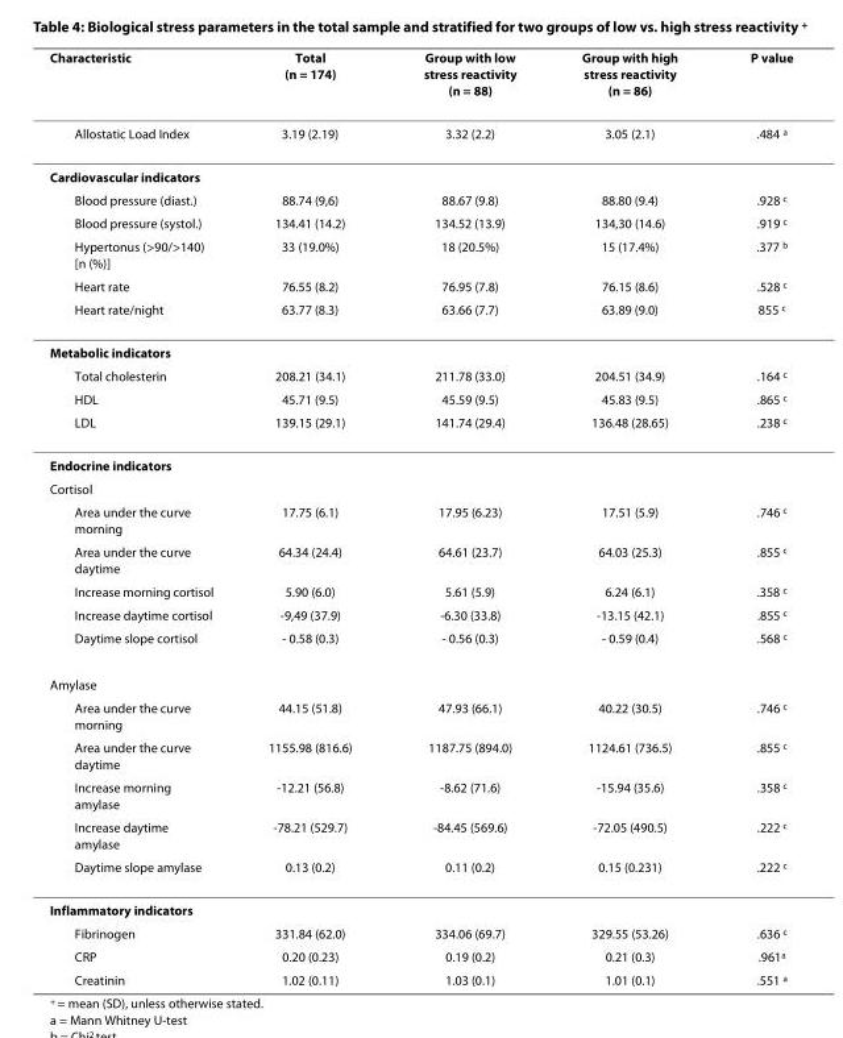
<table><thead><tr><td>Characteristic</td><td>Total (n = 174)</td><td>Group with low stress reactivity (n = 88)</td><td>Group with high stress reactivity (n = 86)</td><td>P value</td></tr></thead><tbody><tr><td>Allostatic Load Index</td><td>3.19 (2.19)</td><td>3.32 (2.2)</td><td>3.05 (2.1)</td><td>.484 <sup>a</sup></td></tr><tr><td colspan="5">Cardiovascular indicators</td></tr><tr><td>Blood pressure (diast.)</td><td>88.74 (9,6)</td><td>88.67 (9.8)</td><td>88.80 (9.4)</td><td>.928 <sup>c</sup></td></tr><tr><td>Blood pressure (systol.)</td><td>134.41 (14.2)</td><td>134.52 (13.9)</td><td>134,30 (14.6)</td><td>.919 <sup>c</sup></td></tr><tr><td>Hypertonus (&gt;90/&gt;140) [n (%)]</td><td>33 (19.0%)</td><td>18 (20.5%)</td><td>15 (17.4%)</td><td>.377 <sup>b</sup></td></tr><tr><td>Heart rate</td><td>76.55 (8.2)</td><td>76.95 (7.8)</td><td>76.15 (8.6)</td><td>.528 <sup>c</sup></td></tr><tr><td>Heart rate/night</td><td>63.77 (8.3)</td><td>63.66 (7.7)</td><td>63.89 (9.0)</td><td>855 <sup>c</sup></td></tr><tr><td colspan="5">Metabolic indicators</td></tr><tr><td>Total cholesterin</td><td>208.21 (34.1)</td><td>211.78 (33.0)</td><td>204.51 (34.9)</td><td>.164 <sup>c</sup></td></tr><tr><td>HDL</td><td>45.71 (9.5)</td><td>45.59 (9.5)</td><td>45.83 (9.5)</td><td>.865 <sup>c</sup></td></tr><tr><td>LDL</td><td>139.15 (29.1)</td><td>141.74 (29.4)</td><td>136.48 (28.65)</td><td>.238 <sup>c</sup></td></tr><tr><td colspan="5">Endocrine indicators</td></tr><tr><td colspan="5">Cortisol</td></tr><tr><td>Area under the curve morning</td><td>17.75 (6.1)</td><td>17.95 (6.23)</td><td>17.51 (5.9)</td><td>.746 <sup>c</sup></td></tr><tr><td>Area under the curve daytime</td><td>64.34 (24.4)</td><td>64.61 (23.7)</td><td>64.03 (25.3)</td><td>.855 <sup>c</sup></td></tr><tr><td>Increase morning cortisol</td><td>5.90 (6.0)</td><td>5.61 (5.9)</td><td>6.24 (6.1)</td><td>.358 <sup>c</sup></td></tr><tr><td>Increase daytime cortisol</td><td>-9,49 (37.9)</td><td>-6.30 (33.8)</td><td>-13.15 (42.1)</td><td>.855 <sup>c</sup></td></tr><tr><td>Daytime slope cortisol</td><td>- 0.58 (0.3)</td><td>- 0.56 (0.3)</td><td>- 0.59 (0.4)</td><td>.568 <sup>c</sup></td></tr><tr><td colspan="5">Amylase</td></tr><tr><td>Area under the curve morning</td><td>44.15 (51.8)</td><td>47.93 (66.1)</td><td>40.22 (30.5)</td><td>.746 <sup>c</sup></td></tr><tr><td>Area under the curve daytime</td><td>1155.98 (816.6)</td><td>1187.75 (894.0)</td><td>1124.61 (736.5)</td><td>.855 <sup>c</sup></td></tr><tr><td>Increase morning amylase</td><td>-12.21 (56.8)</td><td>-8.62 (71.6)</td><td>-15.94 (35.6)</td><td>.358 <sup>c</sup></td></tr><tr><td>Increase daytime amylase</td><td>-78.21 (529.7)</td><td>-84.45 (569.6)</td><td>-72.05 (490.5)</td><td>.222 <sup>c</sup></td></tr><tr><td>Daytime slope amylase</td><td>0.13 (0.2)</td><td>0.11 (0.2)</td><td>0.15 (0.231)</td><td>.222 <sup>c</sup></td></tr><tr><td colspan="5">Inflammatory indicators</td></tr><tr><td>Fibrinogen</td><td>331.84 (62.0)</td><td>334.06 (69.7)</td><td>329.55 (53.26)</td><td>.636 <sup>c</sup></td></tr><tr><td>CRP</td><td>0.20 (0.23)</td><td>0.19 (0.2)</td><td>0.21 (0.3)</td><td>.961<sup>a</sup></td></tr><tr><td>Creatinin</td><td>1.02 (0.11)</td><td>1.03 (0.1)</td><td>1.01 (0.1)</td><td>.551 <sup>a</sup></td></tr></tbody></table>